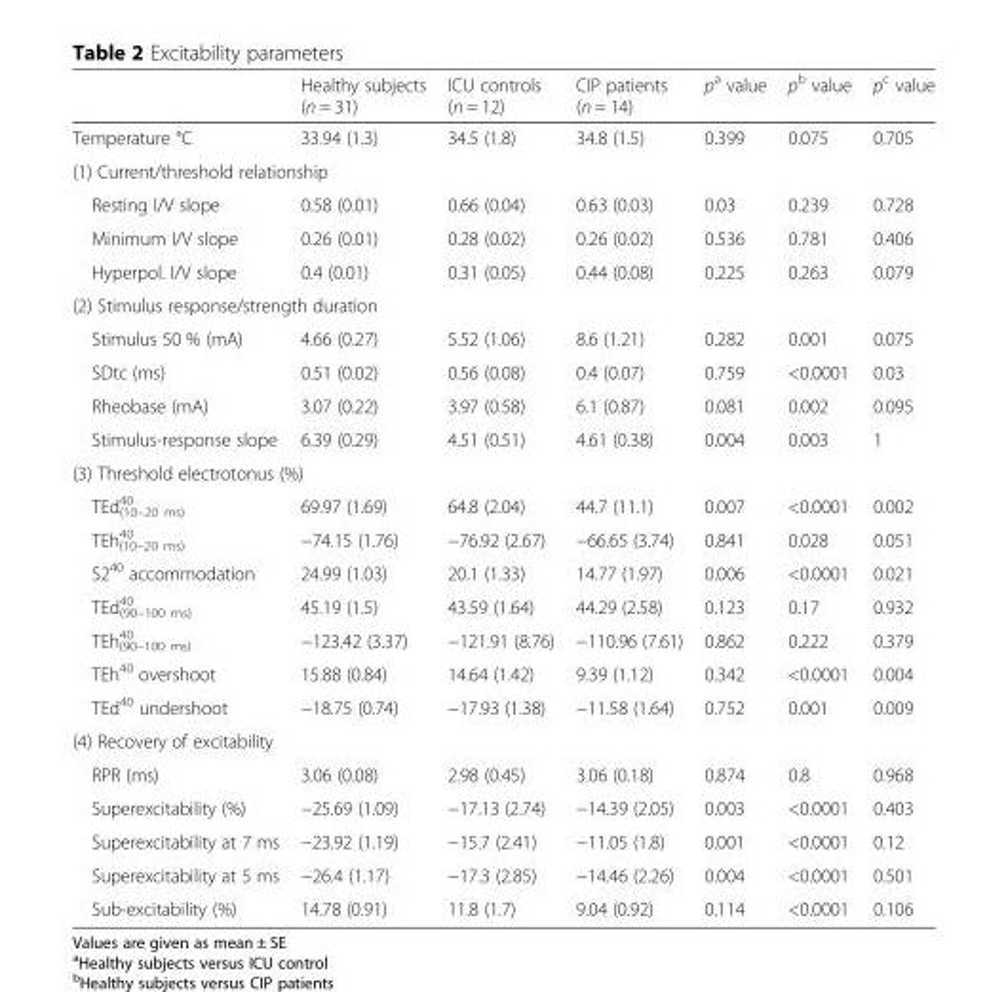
<table><thead><tr><td></td><td>Healthy subjects (n = 31)</td><td>ICU controls (n = 12)</td><td>CIP patients (n = 14)</td><td>p<sup>a</sup> value</td><td>p<sup>b</sup> value</td><td>p<sup>c</sup> value</td></tr></thead><tbody><tr><td>Temperature °C</td><td>33.94 (1.3)</td><td>34.5 (1.8)</td><td>34.8 (1.5)</td><td>0.399</td><td>0.075</td><td>0.705</td></tr><tr><td colspan="7">(1) Current/threshold relationship</td></tr><tr><td>Resting I/V slope</td><td>0.58 (0.01)</td><td>0.66 (0.04)</td><td>0.63 (0.03)</td><td>0.03</td><td>0.239</td><td>0.728</td></tr><tr><td>Minimum I/V slope</td><td>0.26 (0.01)</td><td>0.28 (0.02)</td><td>0.26 (0.02)</td><td>0.536</td><td>0.781</td><td>0.406</td></tr><tr><td>Hyperpol. I/V slope</td><td>0.4 (0.01)</td><td>0.31 (0.05)</td><td>0.44 (0.08)</td><td>0.225</td><td>0.263</td><td>0.079</td></tr><tr><td colspan="7">(2) Stimulus response/strength duration</td></tr><tr><td>Stimulus 50 % (mA)</td><td>4.66 (0.27)</td><td>5.52 (1.06)</td><td>8.6 (1.21)</td><td>0.282</td><td>0.001</td><td>0.075</td></tr><tr><td>SDtc (ms)</td><td>0.51 (0.02)</td><td>0.56 (0.08)</td><td>0.4 (0.07)</td><td>0.759</td><td>&lt;0.0001</td><td>0.03</td></tr><tr><td>Rheobase (mA)</td><td>3.07 (0.22)</td><td>3.97 (0.58)</td><td>6.1 (0.87)</td><td>0.081</td><td>0.002</td><td>0.095</td></tr><tr><td>Stimulus-response slope</td><td>6.39 (0.29)</td><td>4.51 (0.51)</td><td>4.61 (0.38)</td><td>0.004</td><td>0.003</td><td>1</td></tr><tr><td colspan="7">(3) Threshold electrotonus (%)</td></tr><tr><td>TEd<sup>40</sup> <sub>(10–20 ms)</sub></td><td>69.97 (1.69)</td><td>64.8 (2.04)</td><td>44.7 (11.1)</td><td>0.007</td><td>&lt;0.0001</td><td>0.002</td></tr><tr><td>TEh<sup>40</sup> <sub>(10–20 ms)</sub></td><td>−74.15 (1.76)</td><td>−76.92 (2.67)</td><td>−66.65 (3.74)</td><td>0.841</td><td>0.028</td><td>0.051</td></tr><tr><td>S2<sup>40</sup> accommodation</td><td>24.99 (1.03)</td><td>20.1 (1.33)</td><td>14.77 (1.97)</td><td>0.006</td><td>&lt;0.0001</td><td>0.021</td></tr><tr><td>TEd<sup>40</sup> <sub>(90–100 ms)</sub></td><td>45.19 (1.5)</td><td>43.59 (1.64)</td><td>44.29 (2.58)</td><td>0.123</td><td>0.17</td><td>0.932</td></tr><tr><td>TEh<sup>40</sup> <sub>(90–100 ms)</sub></td><td>−123.42 (3.37)</td><td>−121.91 (8.76)</td><td>−110.96 (7.61)</td><td>0.862</td><td>0.222</td><td>0.379</td></tr><tr><td>TEh<sup>40</sup> overshoot</td><td>15.88 (0.84)</td><td>14.64 (1.42)</td><td>9.39 (1.12)</td><td>0.342</td><td>&lt;0.0001</td><td>0.004</td></tr><tr><td>TEd<sup>40</sup> undershoot</td><td>−18.75 (0.74)</td><td>−17.93 (1.38)</td><td>−11.58 (1.64)</td><td>0.752</td><td>0.001</td><td>0.009</td></tr><tr><td colspan="7">(4) Recovery of excitability</td></tr><tr><td>RPR (ms)</td><td>3.06 (0.08)</td><td>2.98 (0.45)</td><td>3.06 (0.18)</td><td>0.874</td><td>0.8</td><td>0.968</td></tr><tr><td>Superexcitability (%)</td><td>−25.69 (1.09)</td><td>−17.13 (2.74)</td><td>−14.39 (2.05)</td><td>0.003</td><td>&lt;0.0001</td><td>0.403</td></tr><tr><td>Superexcitability at 7 ms</td><td>−23.92 (1.19)</td><td>−15.7 (2.41)</td><td>−11.05 (1.8)</td><td>0.001</td><td>&lt;0.0001</td><td>0.12</td></tr><tr><td>Superexcitability at 5 ms</td><td>−26.4 (1.17)</td><td>−17.3 (2.85)</td><td>−14.46 (2.26)</td><td>0.004</td><td>&lt;0.0001</td><td>0.501</td></tr><tr><td>Sub-excitability (%)</td><td>14.78 (0.91)</td><td>11.8 (1.7)</td><td>9.04 (0.92)</td><td>0.114</td><td>&lt;0.0001</td><td>0.106</td></tr></tbody></table>